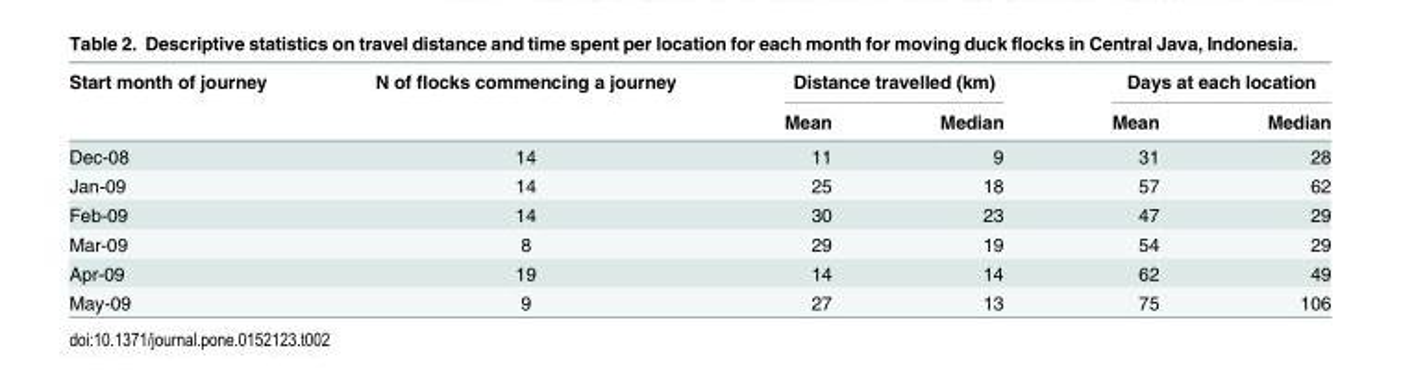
<table><thead><tr><td rowspan="2">Start month of journey</td><td rowspan="2">N of flocks commencing a journey</td><td colspan="2">Distance travelled (km)</td><td colspan="2">Days at each location</td></tr><tr><td>Mean</td><td>Median</td><td>Mean</td><td>Median</td></tr></thead><tbody><tr><td>Dec-08</td><td>14</td><td>11</td><td>9</td><td>31</td><td>28</td></tr><tr><td>Jan-09</td><td>14</td><td>25</td><td>18</td><td>57</td><td>62</td></tr><tr><td>Feb-09</td><td>14</td><td>30</td><td>23</td><td>47</td><td>29</td></tr><tr><td>Mar-09</td><td>8</td><td>29</td><td>19</td><td>54</td><td>29</td></tr><tr><td>Apr-09</td><td>19</td><td>14</td><td>14</td><td>62</td><td>49</td></tr><tr><td>May-09</td><td>9</td><td>27</td><td>13</td><td>75</td><td>106</td></tr></tbody></table>